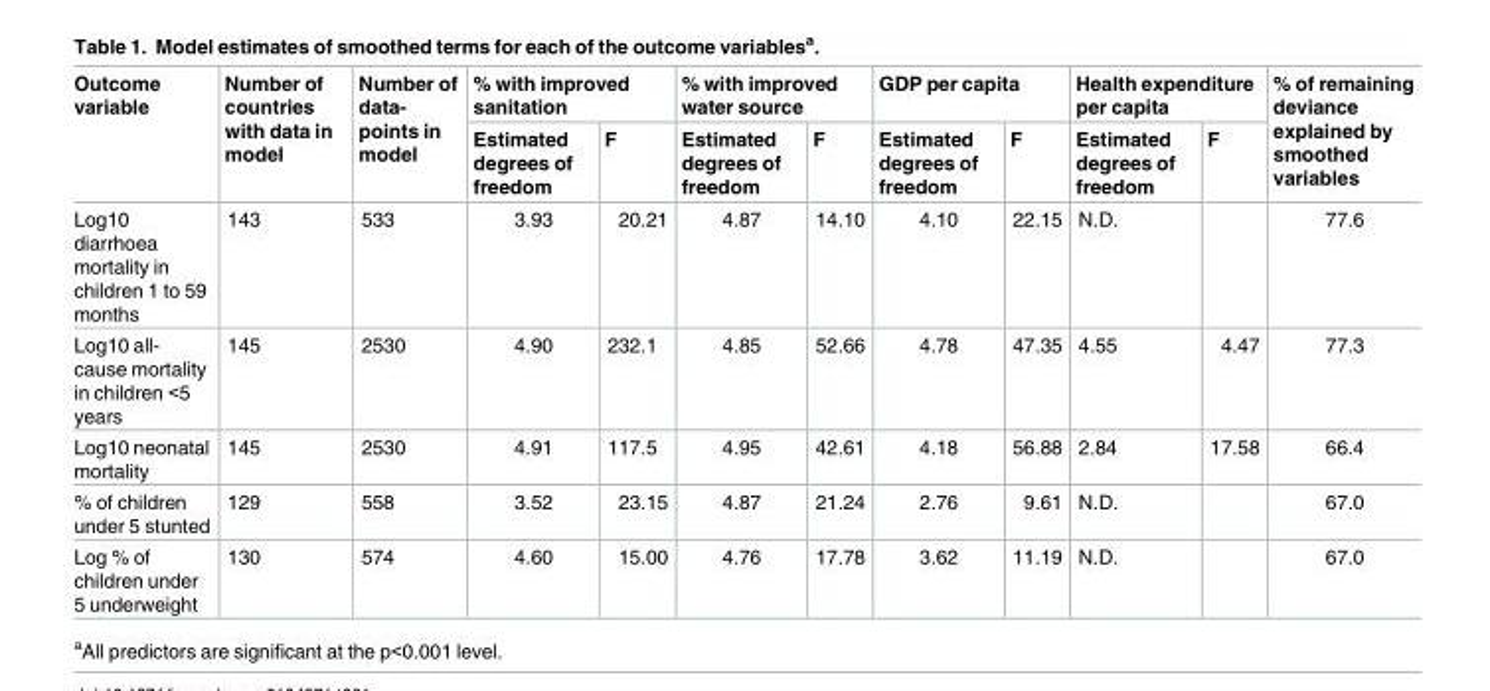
<table><thead><tr><td rowspan="2">Outcome variable</td><td rowspan="2">Number of countries with data in model</td><td rowspan="2">Number of data- points in model</td><td colspan="2">% with improved sanitation</td><td colspan="2">% with improved water source</td><td colspan="2">GDP per capita</td><td colspan="2">Health expenditure per capita</td><td rowspan="2">% of remaining deviance explained by smoothed variables</td></tr><tr><td>Estimated degrees of freedom</td><td>F</td><td>Estimated degrees of freedom</td><td>F</td><td>Estimated degrees of freedom</td><td>F</td><td>Estimated degrees of freedom</td><td>F</td></tr></thead><tbody><tr><td>Log10 diarrhoea mortality in children 1 to 59 months</td><td>143</td><td>533</td><td>3.93</td><td>20.21</td><td>4.87</td><td>14.10</td><td>4.10</td><td>22.15</td><td>N.D.</td><td></td><td>77.6</td></tr><tr><td>Log10 all- cause mortality in children &lt;5 years</td><td>145</td><td>2530</td><td>4.90</td><td>232.1</td><td>4.85</td><td>52.66</td><td>4.78</td><td>47.35</td><td>4.55</td><td>4.47</td><td>77.3</td></tr><tr><td>Log10 neonatal mortality</td><td>145</td><td>2530</td><td>4.91</td><td>117.5</td><td>4.95</td><td>42.61</td><td>4.18</td><td>56.88</td><td>2.84</td><td>17.58</td><td>66.4</td></tr><tr><td>% of children under 5 stunted</td><td>129</td><td>558</td><td>3.52</td><td>23.15</td><td>4.87</td><td>21.24</td><td>2.76</td><td>9.61</td><td>N.D.</td><td></td><td>67.0</td></tr><tr><td>Log % of children under 5 underweight</td><td>130</td><td>574</td><td>4.60</td><td>15.00</td><td>4.76</td><td>17.78</td><td>3.62</td><td>11.19</td><td>N.D.</td><td></td><td>67.0</td></tr></tbody></table>